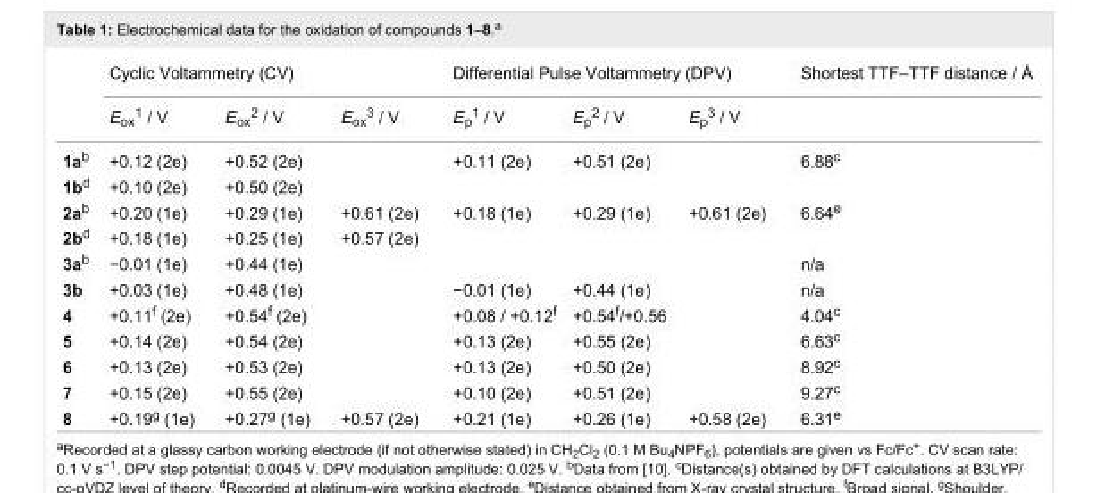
<table><thead><tr><td rowspan="2"></td><td colspan="3">Cyclic Voltammetry (CV)</td><td colspan="3">Differential Pulse Voltammetry (DPV)</td><td rowspan="2">Shortest TTF–TTF distance / Å</td></tr><tr><td>E<sub>ox</sub><sup>1</sup> / V</td><td>E<sub>ox</sub><sup>2</sup> / V</td><td>E<sub>ox</sub><sup>3</sup> / V</td><td>E<sub>p</sub><sup>1</sup> / V</td><td>E<sub>p</sub><sup>2</sup> / V</td><td>E<sub>p</sub><sup>3</sup> / V</td></tr></thead><tbody><tr><td>1a<sup>b</sup></td><td>+0.12 (2e)</td><td>+0.52 (2e)</td><td></td><td>+0.11 (2e)</td><td>+0.51 (2e)</td><td></td><td>6.88<sup>c</sup></td></tr><tr><td>1b<sup>d</sup></td><td>+0.10 (2e)</td><td>+0.50 (2e)</td><td></td><td></td><td></td><td></td><td></td></tr><tr><td>2a<sup>b</sup></td><td>+0.20 (1e)</td><td>+0.29 (1e)</td><td>+0.61 (2e)</td><td>+0.18 (1e)</td><td>+0.29 (1e)</td><td>+0.61 (2e)</td><td>6.64<sup>e</sup></td></tr><tr><td>2b<sup>d</sup></td><td>+0.18 (1e)</td><td>+0.25 (1e)</td><td>+0.57 (2e)</td><td></td><td></td><td></td><td></td></tr><tr><td>3a<sup>b</sup></td><td>−0.01 (1e)</td><td>+0.44 (1e)</td><td></td><td></td><td></td><td></td><td>n/a</td></tr><tr><td>3b</td><td>+0.03 (1e)</td><td>+0.48 (1e)</td><td></td><td>−0.01 (1e)</td><td>+0.44 (1e)</td><td></td><td>n/a</td></tr><tr><td>4</td><td>+0.11<sup>f</sup> (2e)</td><td>+0.54<sup>f</sup> (2e)</td><td></td><td>+0.08 / +0.12<sup>f</sup></td><td>+0.54<sup>f</sup>/+0.56</td><td></td><td>4.04<sup>c</sup></td></tr><tr><td>5</td><td>+0.14 (2e)</td><td>+0.54 (2e)</td><td></td><td>+0.13 (2e)</td><td>+0.55 (2e)</td><td></td><td>6.63<sup>c</sup></td></tr><tr><td>6</td><td>+0.13 (2e)</td><td>+0.53 (2e)</td><td></td><td>+0.13 (2e)</td><td>+0.50 (2e)</td><td></td><td>8.92<sup>c</sup></td></tr><tr><td>7</td><td>+0.15 (2e)</td><td>+0.55 (2e)</td><td></td><td>+0.10 (2e)</td><td>+0.51 (2e)</td><td></td><td>9.27<sup>c</sup></td></tr><tr><td>8</td><td>+0.19<sup>g</sup> (1e)</td><td>+0.27<sup>g</sup> (1e)</td><td>+0.57 (2e)</td><td>+0.21 (1e)</td><td>+0.26 (1e)</td><td>+0.58 (2e)</td><td>6.31<sup>e</sup></td></tr></tbody></table>